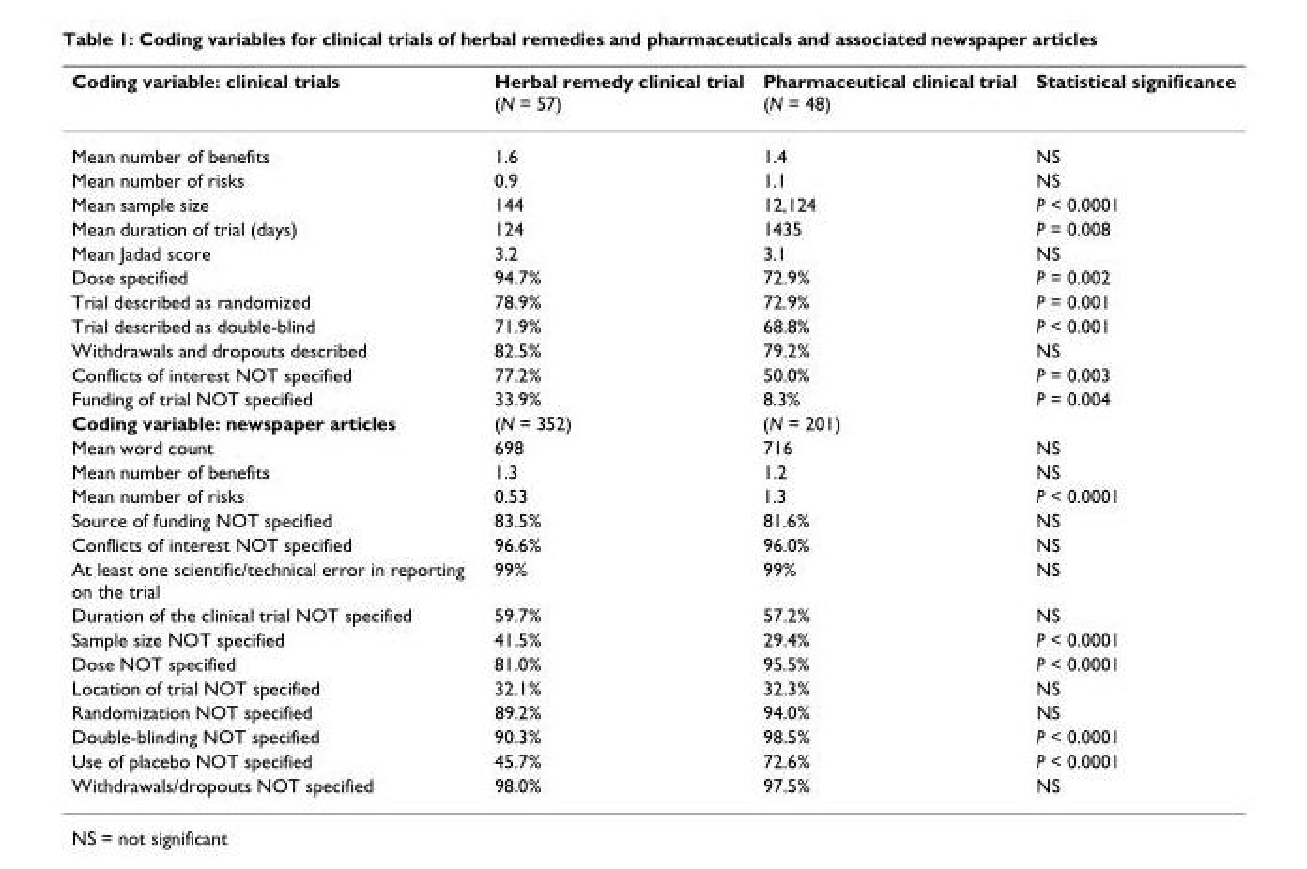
<table><thead><tr><td>Coding variable: clinical trials</td><td>Herbal remedy clinical trial (N = 57)</td><td>Pharmaceutical clinical trial (N = 48)</td><td>Statistical significance</td></tr></thead><tbody><tr><td>Mean number of benefits</td><td>1.6</td><td>1.4</td><td>NS</td></tr><tr><td>Mean number of risks</td><td>0.9</td><td>1.1</td><td>NS</td></tr><tr><td>Mean sample size</td><td>144</td><td>12,124</td><td>P &lt; 0.0001</td></tr><tr><td>Mean duration of trial (days)</td><td>124</td><td>1435</td><td>P = 0.008</td></tr><tr><td>Mean Jadad score</td><td>3.2</td><td>3.1</td><td>NS</td></tr><tr><td>Dose specified</td><td>94.7%</td><td>72.9%</td><td>P = 0.002</td></tr><tr><td>Trial described as randomized</td><td>78.9%</td><td>72.9%</td><td>P = 0.001</td></tr><tr><td>Trial described as double-blind</td><td>71.9%</td><td>68.8%</td><td>P &lt; 0.001</td></tr><tr><td>Withdrawals and dropouts described</td><td>82.5%</td><td>79.2%</td><td>NS</td></tr><tr><td>Conflicts of interest NOT specified</td><td>77.2%</td><td>50.0%</td><td>P = 0.003</td></tr><tr><td>Funding of trial NOT specified</td><td>33.9%</td><td>8.3%</td><td>P = 0.004</td></tr><tr><td>Coding variable: newspaper articles</td><td>(N = 352)</td><td>(N = 201)</td><td></td></tr><tr><td>Mean word count</td><td>698</td><td>716</td><td>NS</td></tr><tr><td>Mean number of benefits</td><td>1.3</td><td>1.2</td><td>NS</td></tr><tr><td>Mean number of risks</td><td>0.53</td><td>1.3</td><td>P &lt; 0.0001</td></tr><tr><td>Source of funding NOT specified</td><td>83.5%</td><td>81.6%</td><td>NS</td></tr><tr><td>Conflicts of interest NOT specified</td><td>96.6%</td><td>96.0%</td><td>NS</td></tr><tr><td>At least one scientific/technical error in reporting on the trial</td><td>99%</td><td>99%</td><td>NS</td></tr><tr><td>Duration of the clinical trial NOT specified</td><td>59.7%</td><td>57.2%</td><td>NS</td></tr><tr><td>Sample size NOT specified</td><td>41.5%</td><td>29.4%</td><td>P &lt; 0.0001</td></tr><tr><td>Dose NOT specified</td><td>81.0%</td><td>95.5%</td><td>P &lt; 0.0001</td></tr><tr><td>Location of trial NOT specified</td><td>32.1%</td><td>32.3%</td><td>NS</td></tr><tr><td>Randomization NOT specified</td><td>89.2%</td><td>94.0%</td><td>NS</td></tr><tr><td>Double-blinding NOT specified</td><td>90.3%</td><td>98.5%</td><td>P &lt; 0.0001</td></tr><tr><td>Use of placebo NOT specified</td><td>45.7%</td><td>72.6%</td><td>P &lt; 0.0001</td></tr><tr><td>Withdrawals/dropouts NOT specified</td><td>98.0%</td><td>97.5%</td><td>NS</td></tr></tbody></table>